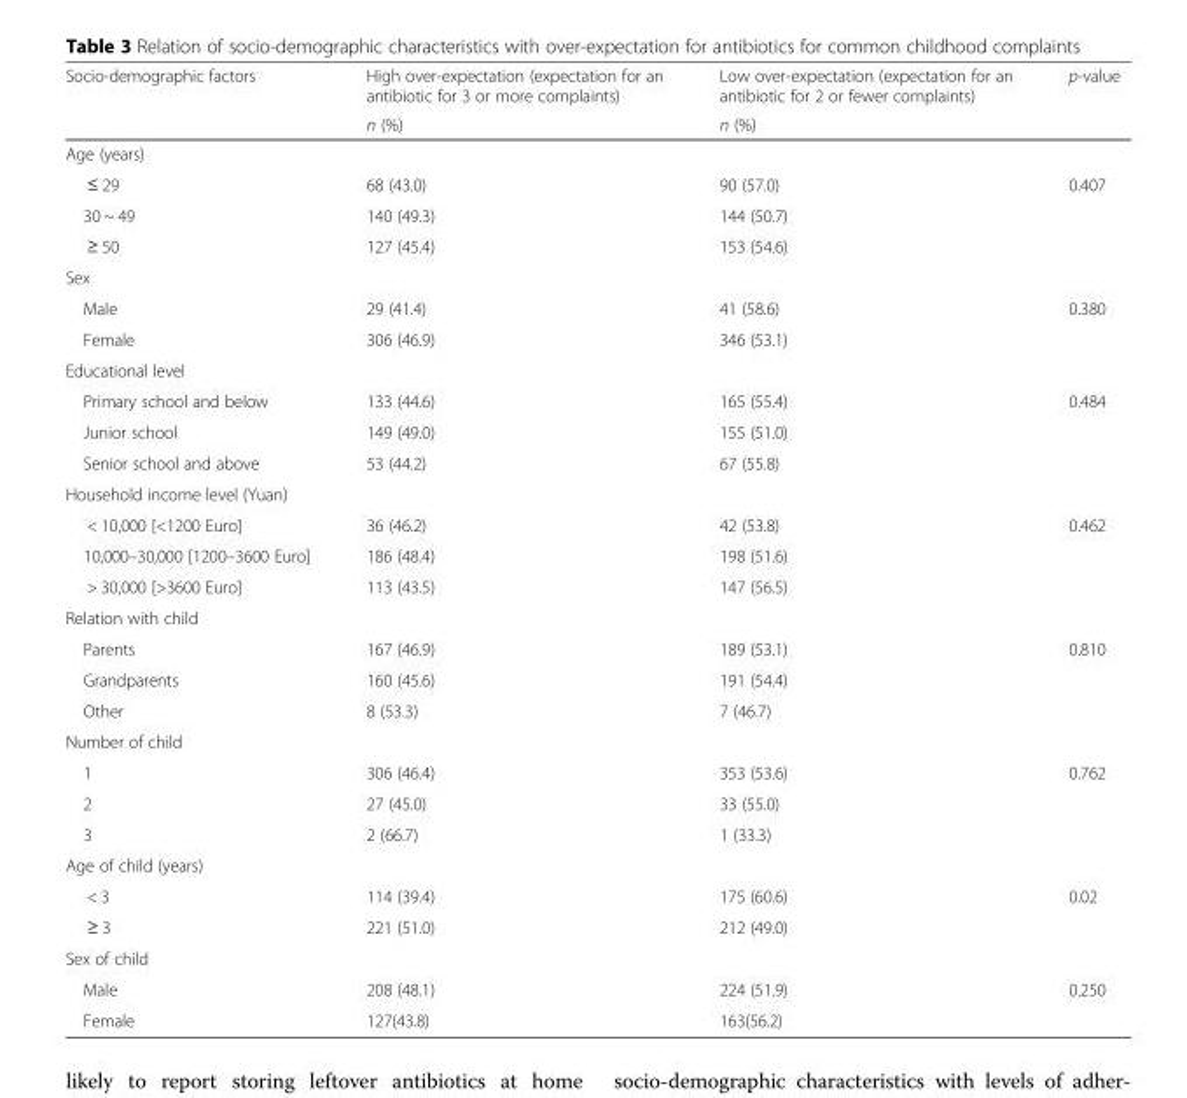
<table><thead><tr><td rowspan="2">Socio-demographic factors</td><td rowspan="2">High over-expectation (expectation for an antibiotic for 3 or more complaints) n (%)</td><td rowspan="2">Low over-expectation (expectation for an antibiotic for 2 or fewer complaints) n (%)</td><td rowspan="2">p-value</td></tr><tr></tr></thead><tbody><tr><td colspan="4">Age (years)</td></tr><tr><td>≤ 29</td><td>68 (43.0)</td><td>90 (57.0)</td><td rowspan="3">0.407</td></tr><tr><td>30 ~ 49</td><td>140 (49.3)</td><td>144 (50.7)</td></tr><tr><td>≥ 50</td><td>127 (45.4)</td><td>153 (54.6)</td></tr><tr><td colspan="4">Sex</td></tr><tr><td>Male</td><td>29 (41.4)</td><td>41 (58.6)</td><td rowspan="2">0.380</td></tr><tr><td>Female</td><td>306 (46.9)</td><td>346 (53.1)</td></tr><tr><td colspan="4">Educational level</td></tr><tr><td>Primary school and below</td><td>133 (44.6)</td><td>165 (55.4)</td><td rowspan="3">0.484</td></tr><tr><td>Junior school</td><td>149 (49.0)</td><td>155 (51.0)</td></tr><tr><td>Senior school and above</td><td>53 (44.2)</td><td>67 (55.8)</td></tr><tr><td colspan="4">Household income level (Yuan)</td></tr><tr><td>&lt; 10,000 [&lt;1200 Euro]</td><td>36 (46.2)</td><td>42 (53.8)</td><td rowspan="3">0.462</td></tr><tr><td>10,000–30,000 [1200–3600 Euro]</td><td>186 (48.4)</td><td>198 (51.6)</td></tr><tr><td>&gt; 30,000 [&gt;3600 Euro]</td><td>113 (43.5)</td><td>147 (56.5)</td></tr><tr><td colspan="4">Relation with child</td></tr><tr><td>Parents</td><td>167 (46.9)</td><td>189 (53.1)</td><td rowspan="3">0.810</td></tr><tr><td>Grandparents</td><td>160 (45.6)</td><td>191 (54.4)</td></tr><tr><td>Other</td><td>8 (53.3)</td><td>7 (46.7)</td></tr><tr><td colspan="4">Number of child</td></tr><tr><td>1</td><td>306 (46.4)</td><td>353 (53.6)</td><td rowspan="3">0.762</td></tr><tr><td>2</td><td>27 (45.0)</td><td>33 (55.0)</td></tr><tr><td>3</td><td>2 (66.7)</td><td>1 (33.3)</td></tr><tr><td colspan="4">Age of child (years)</td></tr><tr><td>&lt; 3</td><td>114 (39.4)</td><td>175 (60.6)</td><td rowspan="2">0.02</td></tr><tr><td>≥ 3</td><td>221 (51.0)</td><td>212 (49.0)</td></tr><tr><td colspan="4">Sex of child</td></tr><tr><td>Male</td><td>208 (48.1)</td><td>224 (51.9)</td><td rowspan="2">0.250</td></tr><tr><td>Female</td><td>127(43.8)</td><td>163(56.2)</td></tr></tbody></table>